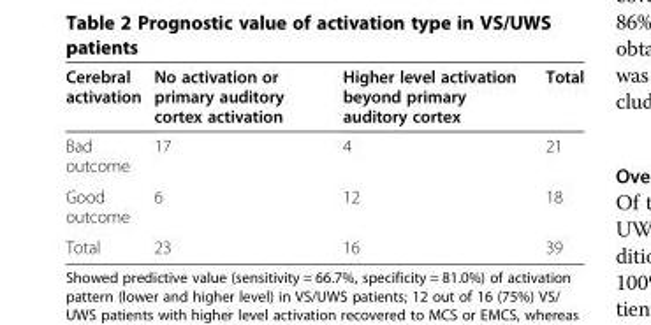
<table><thead><tr><td>Cerebral activation</td><td>No activation or primary auditory cortex activation</td><td>Higher level activation beyond primary auditory cortex</td><td>Total</td></tr></thead><tbody><tr><td>Bad outcome</td><td>17</td><td>4</td><td>21</td></tr><tr><td>Good outcome</td><td>6</td><td>12</td><td>18</td></tr><tr><td>Total</td><td>23</td><td>16</td><td>39</td></tr></tbody></table>